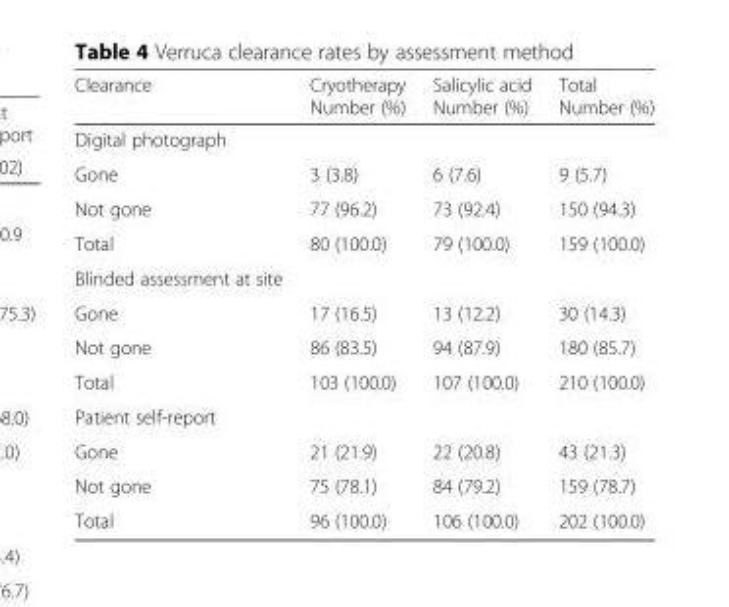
<table><thead><tr><td>Clearance</td><td>Cryotherapy Number (%)</td><td>Salicylic acid Number (%)</td><td>Total Number (%)</td></tr></thead><tbody><tr><td colspan="4">Digital photograph</td></tr><tr><td>Gone</td><td>3 (3.8)</td><td>6 (7.6)</td><td>9 (5.7)</td></tr><tr><td>Not gone</td><td>77 (96.2)</td><td>73 (92.4)</td><td>150 (94.3)</td></tr><tr><td>Total</td><td>80 (100.0)</td><td>79 (100.0)</td><td>159 (100.0)</td></tr><tr><td colspan="4">Blinded assessment at site</td></tr><tr><td>Gone</td><td>17 (16.5)</td><td>13 (12.2)</td><td>30 (14.3)</td></tr><tr><td>Not gone</td><td>86 (83.5)</td><td>94 (87.9)</td><td>180 (85.7)</td></tr><tr><td>Total</td><td>103 (100.0)</td><td>107 (100.0)</td><td>210 (100.0)</td></tr><tr><td colspan="4">Patient self-report</td></tr><tr><td>Gone</td><td>21 (21.9)</td><td>22 (20.8)</td><td>43 (21.3)</td></tr><tr><td>Not gone</td><td>75 (78.1)</td><td>84 (79.2)</td><td>159 (78.7)</td></tr><tr><td>Total</td><td>96 (100.0)</td><td>106 (100.0)</td><td>202 (100.0)</td></tr></tbody></table>